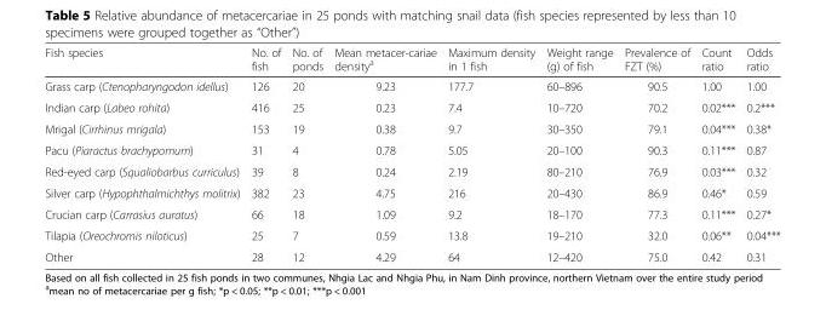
<table><thead><tr><td>Fish species</td><td>No. of fish</td><td>No. of ponds</td><td>Mean metacer-cariae density<sup>a</sup></td><td>Maximum density in 1 fish</td><td>Weight range (g) of fish</td><td>Prevalence of FZT (%)</td><td>Count ratio</td><td>Odds ratio</td></tr></thead><tbody><tr><td>Grass carp (Ctenopharyngodon idellus)</td><td>126</td><td>20</td><td>9.23</td><td>177.7</td><td>60–896</td><td>90.5</td><td>1.00</td><td>1.00</td></tr><tr><td>Indian carp (Labeo rohita)</td><td>416</td><td>25</td><td>0.23</td><td>7.4</td><td>10–720</td><td>70.2</td><td>0.02***</td><td>0.2***</td></tr><tr><td>Mrigal (Cirrhinus mrigala)</td><td>153</td><td>19</td><td>0.38</td><td>9.7</td><td>30–350</td><td>79.1</td><td>0.04***</td><td>0.38*</td></tr><tr><td>Pacu (Piaractus brachypomum)</td><td>31</td><td>4</td><td>0.78</td><td>5.05</td><td>20–100</td><td>90.3</td><td>0.11***</td><td>0.87</td></tr><tr><td>Red-eyed carp (Squaliobarbus curriculus)</td><td>39</td><td>8</td><td>0.24</td><td>2.19</td><td>80–210</td><td>76.9</td><td>0.03***</td><td>0.32</td></tr><tr><td>Silver carp (Hypophthalmichthys molitrix)</td><td>382</td><td>23</td><td>4.75</td><td>216</td><td>20–430</td><td>86.9</td><td>0.46*</td><td>0.59</td></tr><tr><td>Crucian carp (Carrasius auratus)</td><td>66</td><td>18</td><td>1.09</td><td>9.2</td><td>18–170</td><td>77.3</td><td>0.11***</td><td>0.27*</td></tr><tr><td>Tilapia (Oreochromis niloticus)</td><td>25</td><td>7</td><td>0.59</td><td>13.8</td><td>19–210</td><td>32.0</td><td>0.06**</td><td>0.04***</td></tr><tr><td>Other</td><td>28</td><td>12</td><td>4.29</td><td>64</td><td>12–420</td><td>75.0</td><td>0.42</td><td>0.31</td></tr></tbody></table>